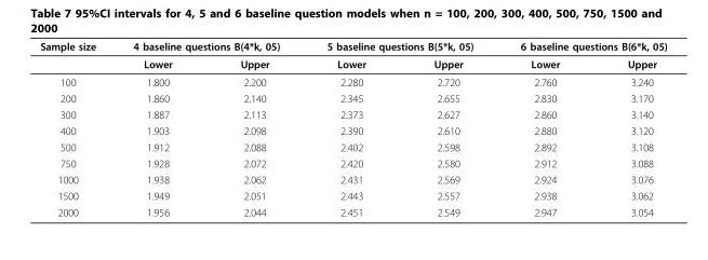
<table><thead><tr><td rowspan="2">Sample size</td><td colspan="2">4 baseline questions B(4*k, 05)</td><td colspan="2">5 baseline questions B(5*k, 05)</td><td colspan="2">6 baseline questions B(6*k, 05)</td></tr><tr><td>Lower</td><td>Upper</td><td>Lower</td><td>Upper</td><td>Lower</td><td>Upper</td></tr></thead><tbody><tr><td>100</td><td>1.800</td><td>2.200</td><td>2.280</td><td>2.720</td><td>2.760</td><td>3.240</td></tr><tr><td>200</td><td>1.860</td><td>2.140</td><td>2.345</td><td>2.655</td><td>2.830</td><td>3.170</td></tr><tr><td>300</td><td>1.887</td><td>2.113</td><td>2.373</td><td>2.627</td><td>2.860</td><td>3.140</td></tr><tr><td>400</td><td>1.903</td><td>2.098</td><td>2.390</td><td>2.610</td><td>2.880</td><td>3.120</td></tr><tr><td>500</td><td>1.912</td><td>2.088</td><td>2.402</td><td>2.598</td><td>2.892</td><td>3.108</td></tr><tr><td>750</td><td>1.928</td><td>2.072</td><td>2.420</td><td>2.580</td><td>2.912</td><td>3.088</td></tr><tr><td>1000</td><td>1.938</td><td>2.062</td><td>2.431</td><td>2.569</td><td>2.924</td><td>3.076</td></tr><tr><td>1500</td><td>1.949</td><td>2.051</td><td>2.443</td><td>2.557</td><td>2.938</td><td>3.062</td></tr><tr><td>2000</td><td>1.956</td><td>2.044</td><td>2.451</td><td>2.549</td><td>2.947</td><td>3.054</td></tr></tbody></table>